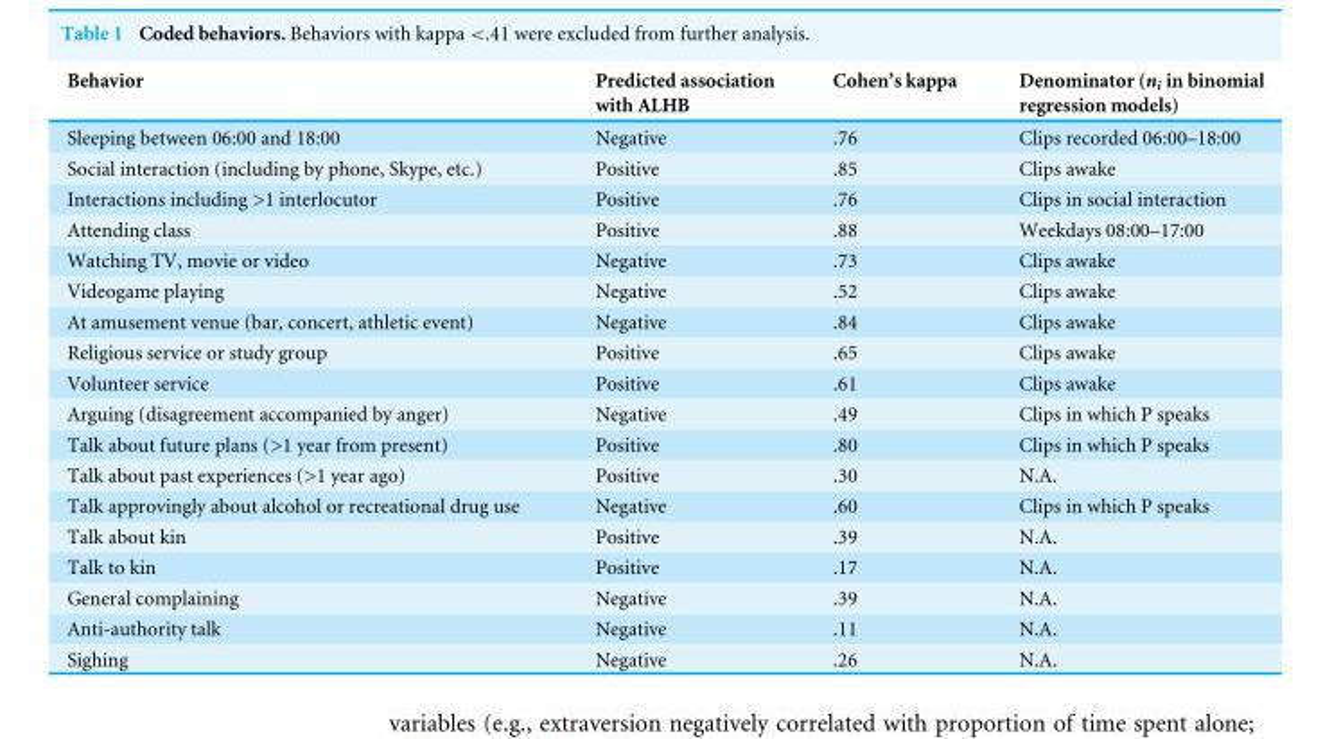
<table><thead><tr><td>Behavior</td><td>Predicted association with ALHB</td><td>Cohen’s kappa</td><td>Denominator (n<sub>i</sub> in binomial regression models)</td></tr></thead><tbody><tr><td>Sleeping between 06:00 and 18:00</td><td>Negative</td><td>.76</td><td>Clips recorded 06:00–18:00</td></tr><tr><td>Social interaction (including by phone, Skype, etc.)</td><td>Positive</td><td>.85</td><td>Clips awake</td></tr><tr><td>Interactions including &gt;1 interlocutor</td><td>Positive</td><td>.76</td><td>Clips in social interaction</td></tr><tr><td>Attending class</td><td>Positive</td><td>.88</td><td>Weekdays 08:00–17:00</td></tr><tr><td>Watching TV, movie or video</td><td>Negative</td><td>.73</td><td>Clips awake</td></tr><tr><td>Videogame playing</td><td>Negative</td><td>.52</td><td>Clips awake</td></tr><tr><td>At amusement venue (bar, concert, athletic event)</td><td>Negative</td><td>.84</td><td>Clips awake</td></tr><tr><td>Religious service or study group</td><td>Positive</td><td>.65</td><td>Clips awake</td></tr><tr><td>Volunteer service</td><td>Positive</td><td>.61</td><td>Clips awake</td></tr><tr><td>Arguing (disagreement accompanied by anger)</td><td>Negative</td><td>.49</td><td>Clips in which P speaks</td></tr><tr><td>Talk about future plans (&gt;1 year from present)</td><td>Positive</td><td>.80</td><td>Clips in which P speaks</td></tr><tr><td>Talk about past experiences (&gt;1 year ago)</td><td>Positive</td><td>.30</td><td>N.A.</td></tr><tr><td>Talk approvingly about alcohol or recreational drug use</td><td>Negative</td><td>.60</td><td>Clips in which P speaks</td></tr><tr><td>Talk about kin</td><td>Positive</td><td>.39</td><td>N.A.</td></tr><tr><td>Talk to kin</td><td>Positive</td><td>.17</td><td>N.A.</td></tr><tr><td>General complaining</td><td>Negative</td><td>.39</td><td>N.A.</td></tr><tr><td>Anti-authority talk</td><td>Negative</td><td>.11</td><td>N.A.</td></tr><tr><td>Sighing</td><td>Negative</td><td>.26</td><td>N.A.</td></tr></tbody></table>